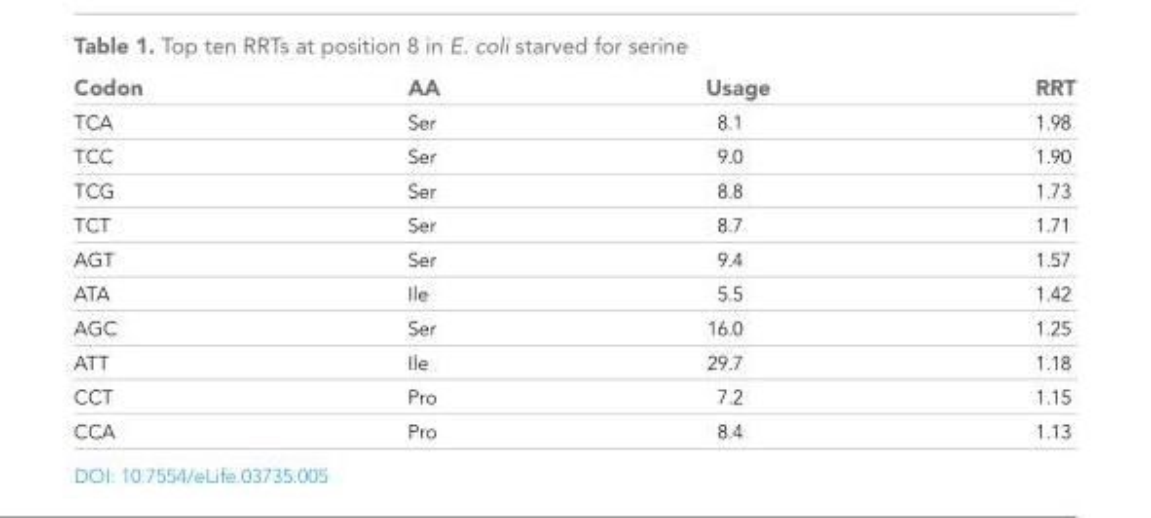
<table><thead><tr><td>Codon</td><td>AA</td><td>Usage</td><td>RRT</td></tr></thead><tbody><tr><td>TCA</td><td>Ser</td><td>8.1</td><td>1.98</td></tr><tr><td>TCC</td><td>Ser</td><td>9.0</td><td>1.90</td></tr><tr><td>TCG</td><td>Ser</td><td>8.8</td><td>1.73</td></tr><tr><td>TCT</td><td>Ser</td><td>8.7</td><td>1.71</td></tr><tr><td>AGT</td><td>Ser</td><td>9.4</td><td>1.57</td></tr><tr><td>ATA</td><td>Ile</td><td>5.5</td><td>1.42</td></tr><tr><td>AGC</td><td>Ser</td><td>16.0</td><td>1.25</td></tr><tr><td>ATT</td><td>Ile</td><td>29.7</td><td>1.18</td></tr><tr><td>CCT</td><td>Pro</td><td>7.2</td><td>1.15</td></tr><tr><td>CCA</td><td>Pro</td><td>8.4</td><td>1.13</td></tr></tbody></table>